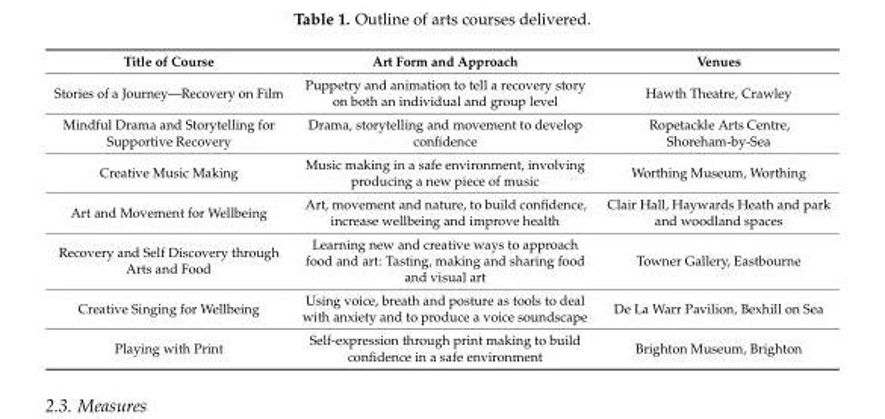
<table><thead><tr><td>Title of Course</td><td>Art Form and Approach</td><td>Venues</td></tr></thead><tbody><tr><td>Stories of a Journey—Recovery on Film</td><td>Puppetry and animation to tell a recovery story on both an individual and group level</td><td>Hawth Theatre, Crawley</td></tr><tr><td>Mindful Drama and Storytelling for Supportive Recovery</td><td>Drama, storytelling and movement to develop confidence</td><td>Ropetackle Arts Centre, Shoreham-by-Sea</td></tr><tr><td>Creative Music Making</td><td>Music making in a safe environment, involving producing a new piece of music</td><td>Worthing Museum, Worthing</td></tr><tr><td>Art and Movement for Wellbeing</td><td>Art, movement and nature, to build confidence, increase wellbeing and improve health</td><td>Clair Hall, Haywards Heath and park and woodland spaces</td></tr><tr><td>Recovery and Self Discovery through Arts and Food</td><td>Learning new and creative ways to approach food and art: Tasting, making and sharing food and visual art</td><td>Towner Gallery, Eastbourne</td></tr><tr><td>Creative Singing for Wellbeing</td><td>Using voice, breath and posture as tools to deal with anxiety and to produce a voice soundscape</td><td>De La Warr Pavilion, Bexhill on Sea</td></tr><tr><td>Playing with Print</td><td>Self-expression through print making to build confidence in a safe environment</td><td>Brighton Museum, Brighton</td></tr></tbody></table>